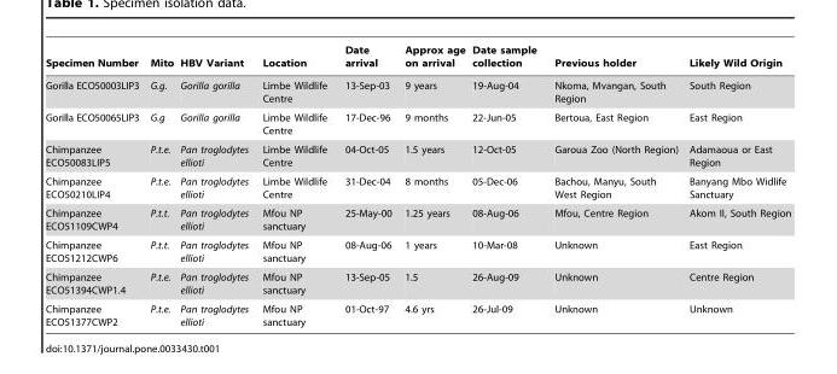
<table><thead><tr><td>Specimen Number</td><td>Mito</td><td>HBV Variant</td><td>Location</td><td>Date arrival</td><td>Approx age on arrival</td><td>Date sample collection</td><td>Previous holder</td><td>Likely Wild Origin</td></tr></thead><tbody><tr><td>Gorilla ECO50003LIP3</td><td>G.g.</td><td>Gorilla gorilla</td><td>Limbe Wildlife Centre</td><td>13-Sep-03</td><td>9 years</td><td>19-Aug-04</td><td>Nkoma, Mvangan, South Region</td><td>South Region</td></tr><tr><td>Gorilla ECO50065LIP3</td><td>G.g</td><td>Gorilla gorilla</td><td>Limbe Wildlife Centre</td><td>17-Dec-96</td><td>9 months</td><td>22-Jun-05</td><td>Bertoua, East Region</td><td>East Region</td></tr><tr><td>Chimpanzee ECO50083LIP5</td><td>P.t.e.</td><td>Pan troglodytes ellioti</td><td>Limbe Wildlife Centre</td><td>04-Oct-05</td><td>1.5 years</td><td>12-Oct-05</td><td>Garoua Zoo (North Region)</td><td>Adamaoua or East Region</td></tr><tr><td>Chimpanzee ECO50210LIP4</td><td>P.t.e.</td><td>Pan troglodytes ellioti</td><td>Limbe Wildlife Centre</td><td>31-Dec-04</td><td>8 months</td><td>05-Dec-06</td><td>Bachou, Manyu, South West Region</td><td>Banyang Mbo Widlife Sanctuary</td></tr><tr><td>Chimpanzee ECO51109CWP4</td><td>P.t.t.</td><td>Pan troglodytes ellioti</td><td>Mfou NP sanctuary</td><td>25-May-00</td><td>1.25 years</td><td>08-Aug-06</td><td>Mfou, Centre Region</td><td>Akom II, South Region</td></tr><tr><td>Chimpanzee ECO51212CWP6</td><td>P.t.t.</td><td>Pan troglodytes ellioti</td><td>Mfou NP sanctuary</td><td>08-Aug-06</td><td>1 years</td><td>10-Mar-08</td><td>Unknown</td><td>East Region</td></tr><tr><td>Chimpanzee ECO51394CWP1.4</td><td>P.t.e.</td><td>Pan troglodytes ellioti</td><td>Mfou NP sanctuary</td><td>13-Sep-05</td><td>1.5</td><td>26-Aug-09</td><td>Unknown</td><td>Centre Region</td></tr><tr><td>Chimpanzee ECO51377CWP2</td><td>P.t.e.</td><td>Pan troglodytes ellioti</td><td>Mfou NP sanctuary</td><td>01-Oct-97</td><td>4.6 yrs</td><td>26-Jul-09</td><td>Unknown</td><td>Unknown</td></tr></tbody></table>